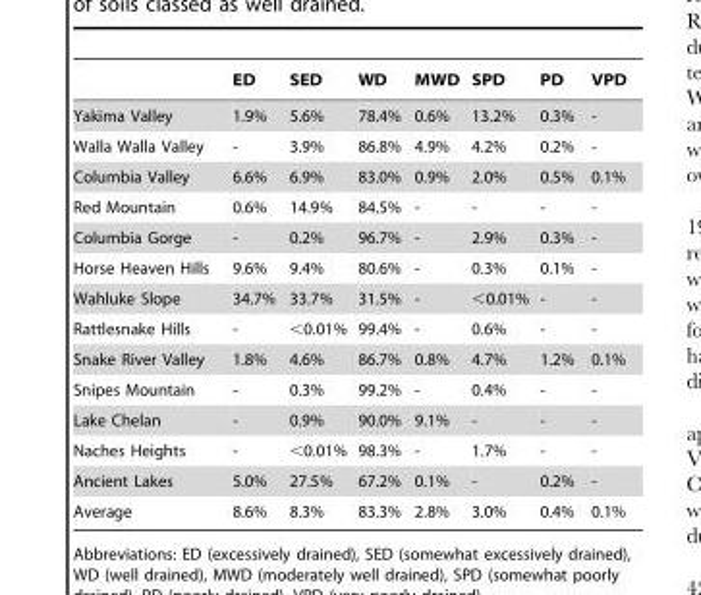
<table><thead><tr><td></td><td>ED</td><td>SED</td><td>WD</td><td>MWD</td><td>SPD</td><td>PD</td><td>VPD</td></tr></thead><tbody><tr><td>Yakima Valley</td><td>1.9%</td><td>5.6%</td><td>78.4%</td><td>0.6%</td><td>13.2%</td><td>0.3%</td><td>-</td></tr><tr><td>Walla Walla Valley</td><td>-</td><td>3.9%</td><td>86.8%</td><td>4.9%</td><td>4.2%</td><td>0.2%</td><td>-</td></tr><tr><td>Columbia Valley</td><td>6.6%</td><td>6.9%</td><td>83.0%</td><td>0.9%</td><td>2.0%</td><td>0.5%</td><td>0.1%</td></tr><tr><td>Red Mountain</td><td>0.6%</td><td>14.9%</td><td>84.5%</td><td>-</td><td>-</td><td>-</td><td>-</td></tr><tr><td>Columbia Gorge</td><td>-</td><td>0.2%</td><td>96.7%</td><td>-</td><td>2.9%</td><td>0.3%</td><td>-</td></tr><tr><td>Horse Heaven Hills</td><td>9.6%</td><td>9.4%</td><td>80.6%</td><td>-</td><td>0.3%</td><td>0.1%</td><td>-</td></tr><tr><td>Wahluke Slope</td><td>34.7%</td><td>33.7%</td><td>31.5%</td><td>-</td><td>&lt;0.01%</td><td>-</td><td>-</td></tr><tr><td>Rattlesnake Hills</td><td>-</td><td>&lt;0.01%</td><td>99.4%</td><td>-</td><td>0.6%</td><td>-</td><td>-</td></tr><tr><td>Snake River Valley</td><td>1.8%</td><td>4.6%</td><td>86.7%</td><td>0.8%</td><td>4.7%</td><td>1.2%</td><td>0.1%</td></tr><tr><td>Snipes Mountain</td><td>-</td><td>0.3%</td><td>99.2%</td><td>-</td><td>0.4%</td><td>-</td><td>-</td></tr><tr><td>Lake Chelan</td><td>-</td><td>0.9%</td><td>90.0%</td><td>9.1%</td><td>-</td><td>-</td><td>-</td></tr><tr><td>Naches Heights</td><td>-</td><td>&lt;0.01%</td><td>98.3%</td><td>-</td><td>1.7%</td><td>-</td><td>-</td></tr><tr><td>Ancient Lakes</td><td>5.0%</td><td>27.5%</td><td>67.2%</td><td>0.1%</td><td>-</td><td>0.2%</td><td>-</td></tr><tr><td>Average</td><td>8.6%</td><td>8.3%</td><td>83.3%</td><td>2.8%</td><td>3.0%</td><td>0.4%</td><td>0.1%</td></tr></tbody></table>